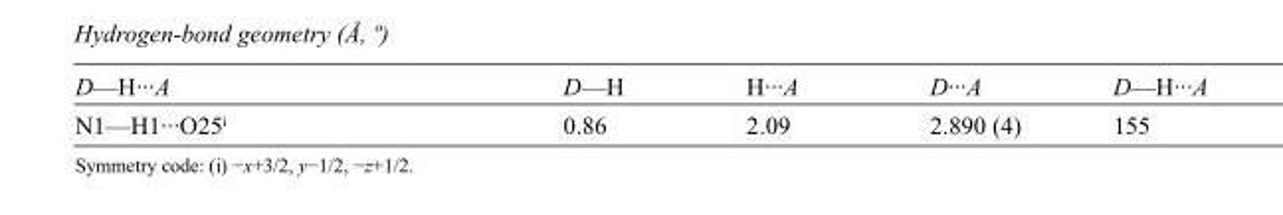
<table><tbody><tr><td>D—H···A</td><td>D—H</td><td>H···A</td><td>D···A</td><td>D—H···A</td></tr><tr><td>N1—H1···O25<sup>i</sup></td><td>0.86</td><td>2.09</td><td>2.890 (4)</td><td>155</td></tr></tbody></table>